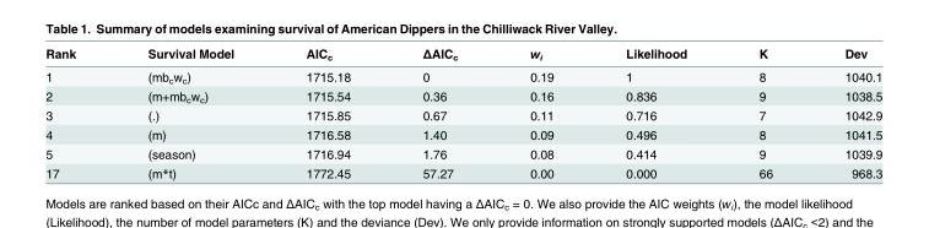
<table><thead><tr><td>Rank</td><td>Survival Model</td><td>AIC<sub>c</sub></td><td>ΔAIC<sub>c</sub></td><td>w<sub>i</sub></td><td>Likelihood</td><td>K</td><td>Dev</td></tr></thead><tbody><tr><td>1</td><td>(mb<sub>c</sub>w<sub>c</sub>)</td><td>1715.18</td><td>0</td><td>0.19</td><td>1</td><td>8</td><td>1040.1</td></tr><tr><td>2</td><td>(m+mb<sub>c</sub>w<sub>c</sub>)</td><td>1715.54</td><td>0.36</td><td>0.16</td><td>0.836</td><td>9</td><td>1038.5</td></tr><tr><td>3</td><td>(.)</td><td>1715.85</td><td>0.67</td><td>0.11</td><td>0.716</td><td>7</td><td>1042.9</td></tr><tr><td>4</td><td>(m)</td><td>1716.58</td><td>1.40</td><td>0.09</td><td>0.496</td><td>8</td><td>1041.5</td></tr><tr><td>5</td><td>(season)</td><td>1716.94</td><td>1.76</td><td>0.08</td><td>0.414</td><td>9</td><td>1039.9</td></tr><tr><td>17</td><td>(m*t)</td><td>1772.45</td><td>57.27</td><td>0.00</td><td>0.000</td><td>66</td><td>968.3</td></tr></tbody></table>